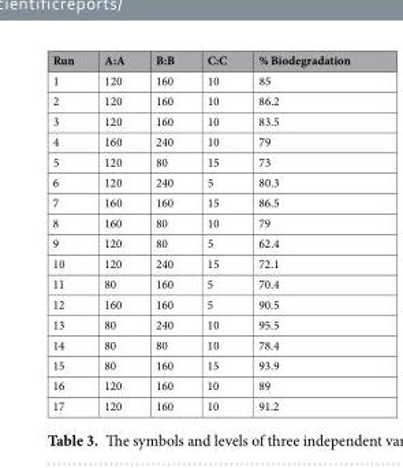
<table><thead><tr><td>Run</td><td>A:A</td><td>B:B</td><td>C:C</td><td>% Biodegradation</td></tr></thead><tbody><tr><td>1</td><td>120</td><td>160</td><td>10</td><td>85</td></tr><tr><td>2</td><td>120</td><td>160</td><td>10</td><td>86.2</td></tr><tr><td>3</td><td>120</td><td>160</td><td>10</td><td>83.5</td></tr><tr><td>4</td><td>160</td><td>240</td><td>10</td><td>79</td></tr><tr><td>5</td><td>120</td><td>80</td><td>15</td><td>73</td></tr><tr><td>6</td><td>120</td><td>240</td><td>5</td><td>80.3</td></tr><tr><td>7</td><td>160</td><td>160</td><td>15</td><td>86.5</td></tr><tr><td>8</td><td>160</td><td>80</td><td>10</td><td>79</td></tr><tr><td>9</td><td>120</td><td>80</td><td>5</td><td>62.4</td></tr><tr><td>10</td><td>120</td><td>240</td><td>15</td><td>72.1</td></tr><tr><td>11</td><td>80</td><td>160</td><td>5</td><td>70.4</td></tr><tr><td>12</td><td>160</td><td>160</td><td>5</td><td>90.5</td></tr><tr><td>13</td><td>80</td><td>240</td><td>10</td><td>95.5</td></tr><tr><td>14</td><td>80</td><td>80</td><td>10</td><td>78.4</td></tr><tr><td>15</td><td>80</td><td>160</td><td>15</td><td>93.9</td></tr><tr><td>16</td><td>120</td><td>160</td><td>10</td><td>89</td></tr><tr><td>17</td><td>120</td><td>160</td><td>10</td><td>91.2</td></tr></tbody></table>